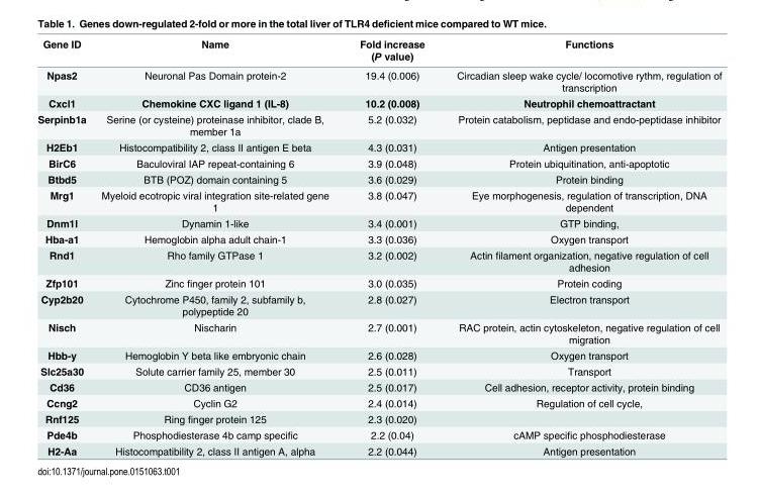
<table><thead><tr><td>Gene ID</td><td>Name</td><td>Fold increase (P value)</td><td>Functions</td></tr></thead><tbody><tr><td>Npas2</td><td>Neuronal Pas Domain protein-2</td><td>19.4 (0.006)</td><td>Circadian sleep wake cycle/ locomotive rythm, regulation of transcription</td></tr><tr><td>Cxcl1</td><td>Chemokine CXC ligand 1 (IL-8)</td><td>10.2 (0.008)</td><td>Neutrophil chemoattractant</td></tr><tr><td>Serpinb1a</td><td>Serine (or cysteine) proteinase inhibitor, clade B, member 1a</td><td>5.2 (0.032)</td><td>Protein catabolism, peptidase and endo-peptidase inhibitor</td></tr><tr><td>H2Eb1</td><td>Histocompatibility 2, class II antigen E beta</td><td>4.3 (0.031)</td><td>Antigen presentation</td></tr><tr><td>BirC6</td><td>Baculoviral IAP repeat-containing 6</td><td>3.9 (0.048)</td><td>Protein ubiquitination, anti-apoptotic</td></tr><tr><td>Btbd5</td><td>BTB (POZ) domain containing 5</td><td>3.6 (0.029)</td><td>Protein binding</td></tr><tr><td>Mrg1</td><td>Myeloid ecotropic viral integration site-related gene 1</td><td>3.8 (0.047)</td><td>Eye morphogenesis, regulation of transcription, DNA dependent</td></tr><tr><td>Dnm1l</td><td>Dynamin 1-like</td><td>3.4 (0.001)</td><td>GTP binding,</td></tr><tr><td>Hba-a1</td><td>Hemoglobin alpha adult chain-1</td><td>3.3 (0.036)</td><td>Oxygen transport</td></tr><tr><td>Rnd1</td><td>Rho family GTPase 1</td><td>3.2 (0.002)</td><td>Actin filament organization, negative regulation of cell adhesion</td></tr><tr><td>Zfp101</td><td>Zinc finger protein 101</td><td>3.0 (0.035)</td><td>Protein coding</td></tr><tr><td>Cyp2b20</td><td>Cytochrome P450, family 2, subfamily b, polypeptide 20</td><td>2.8 (0.027)</td><td>Electron transport</td></tr><tr><td>Nisch</td><td>Nischarin</td><td>2.7 (0.001)</td><td>RAC protein, actin cytoskeleton, negative regulation of cell migration</td></tr><tr><td>Hbb-y</td><td>Hemoglobin Y beta like embryonic chain</td><td>2.6 (0.028)</td><td>Oxygen transport</td></tr><tr><td>Slc25a30</td><td>Solute carrier family 25, member 30</td><td>2.5 (0.011)</td><td>Transport</td></tr><tr><td>Cd36</td><td>CD36 antigen</td><td>2.5 (0.017)</td><td>Cell adhesion, receptor activity, protein binding</td></tr><tr><td>Ccng2</td><td>Cyclin G2</td><td>2.4 (0.014)</td><td>Regulation of cell cycle,</td></tr><tr><td>Rnf125</td><td>Ring finger protein 125</td><td>2.3 (0.020)</td><td></td></tr><tr><td>Pde4b</td><td>Phosphodiesterase 4b camp specific</td><td>2.2 (0.04)</td><td>cAMP specific phosphodiesterase</td></tr><tr><td>H2-Aa</td><td>Histocompatibility 2, class II antigen A, alpha</td><td>2.2 (0.044)</td><td>Antigen presentation</td></tr></tbody></table>